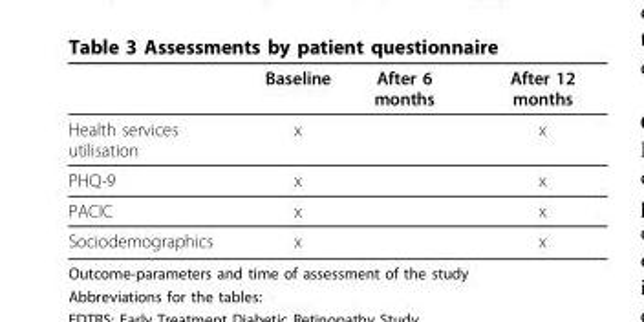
<table><thead><tr><td></td><td>Baseline</td><td>After 6 months</td><td>After 12 months</td></tr></thead><tbody><tr><td>Health services utilisation</td><td>x</td><td></td><td>x</td></tr><tr><td>PHQ-9</td><td>x</td><td></td><td>x</td></tr><tr><td>PACIC</td><td>x</td><td></td><td>x</td></tr><tr><td>Sociodemographics</td><td>x</td><td></td><td>x</td></tr></tbody></table>